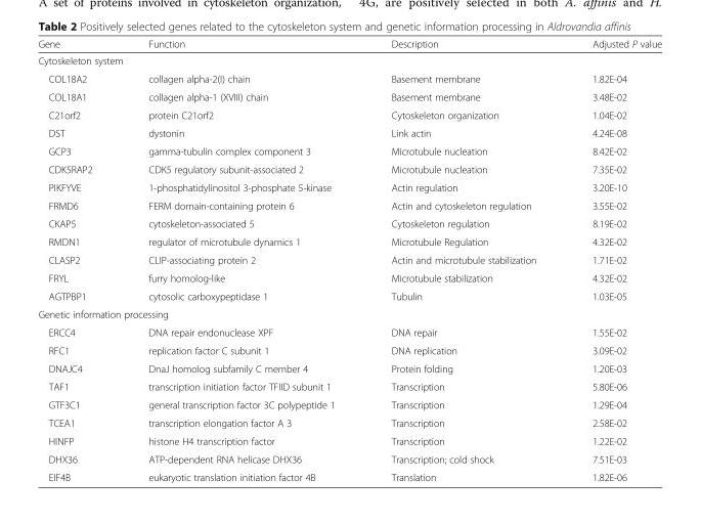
<table><thead><tr><td>Gene</td><td>Function</td><td>Description</td><td>Adjusted P value</td></tr></thead><tbody><tr><td colspan="4">Cytoskeleton system</td></tr><tr><td>COL18A2</td><td>collagen alpha-2(I) chain</td><td>Basement membrane</td><td>1.82E-04</td></tr><tr><td>COL18A1</td><td>collagen alpha-1 (XVIII) chain</td><td>Basement membrane</td><td>3.48E-02</td></tr><tr><td>C21orf2</td><td>protein C21orf2</td><td>Cytoskeleton organization</td><td>1.04E-02</td></tr><tr><td>DST</td><td>dystonin</td><td>Link actin</td><td>4.24E-08</td></tr><tr><td>GCP3</td><td>gamma-tubulin complex component 3</td><td>Microtubule nucleation</td><td>8.42E-02</td></tr><tr><td>CDK5RAP2</td><td>CDK5 regulatory subunit-associated 2</td><td>Microtubule nucleation</td><td>7.35E-02</td></tr><tr><td>PIKFYVE</td><td>1-phosphatidylinositol 3-phosphate 5-kinase</td><td>Actin regulation</td><td>3.20E-10</td></tr><tr><td>FRMD6</td><td>FERM domain-containing protein 6</td><td>Actin and cytoskeleton regulation</td><td>3.55E-02</td></tr><tr><td>CKAP5</td><td>cytoskeleton-associated 5</td><td>Cytoskeleton regulation</td><td>8.19E-02</td></tr><tr><td>RMDN1</td><td>regulator of microtubule dynamics 1</td><td>Microtubule Regulation</td><td>4.32E-02</td></tr><tr><td>CLASP2</td><td>CLIP-associating protein 2</td><td>Actin and microtubule stabilization</td><td>1.71E-02</td></tr><tr><td>FRYL</td><td>furry homolog-like</td><td>Microtubule stabilization</td><td>4.32E-02</td></tr><tr><td>AGTPBP1</td><td>cytosolic carboxypeptidase 1</td><td>Tubulin</td><td>1.03E-05</td></tr><tr><td colspan="4">Genetic information processing</td></tr><tr><td>ERCC4</td><td>DNA repair endonuclease XPF</td><td>DNA repair</td><td>1.55E-02</td></tr><tr><td>RFC1</td><td>replication factor C subunit 1</td><td>DNA replication</td><td>3.09E-02</td></tr><tr><td>DNAJC4</td><td>DnaJ homolog subfamily C member 4</td><td>Protein folding</td><td>1.20E-03</td></tr><tr><td>TAF1</td><td>transcription initiation factor TFIID subunit 1</td><td>Transcription</td><td>5.80E-06</td></tr><tr><td>GTF3C1</td><td>general transcription factor 3C polypeptide 1</td><td>Transcription</td><td>1.29E-04</td></tr><tr><td>TCEA1</td><td>transcription elongation factor A 3</td><td>Transcription</td><td>2.58E-02</td></tr><tr><td>HINFP</td><td>histone H4 transcription factor</td><td>Transcription</td><td>1.22E-02</td></tr><tr><td>DHX36</td><td>ATP-dependent RNA helicase DHX36</td><td>Transcription; cold shock</td><td>7.51E-03</td></tr><tr><td>EIF4B</td><td>eukaryotic translation initiation factor 4B</td><td>Translation</td><td>1.82E-06</td></tr></tbody></table>